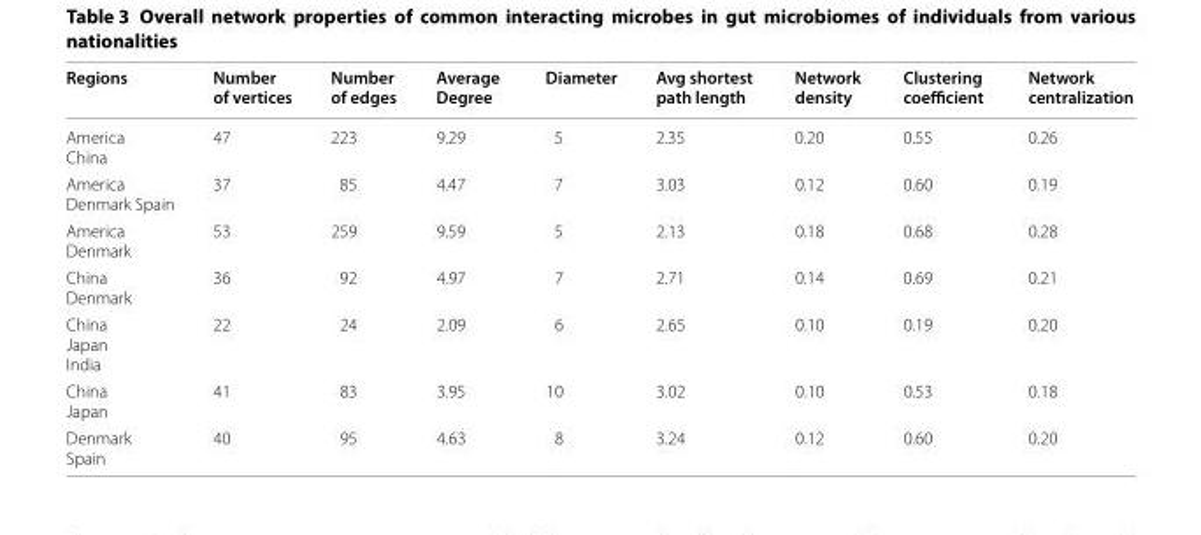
<table><thead><tr><td>Regions</td><td>Number of vertices</td><td>Number of edges</td><td>Average Degree</td><td>Diameter</td><td>Avg shortest path length</td><td>Network density</td><td>Clustering coefficient</td><td>Network centralization</td></tr></thead><tbody><tr><td>America China</td><td>47</td><td>223</td><td>9.29</td><td>5</td><td>2.35</td><td>0.20</td><td>0.55</td><td>0.26</td></tr><tr><td>America Denmark Spain</td><td>37</td><td>85</td><td>4.47</td><td>7</td><td>3.03</td><td>0.12</td><td>0.60</td><td>0.19</td></tr><tr><td>America Denmark</td><td>53</td><td>259</td><td>9.59</td><td>5</td><td>2.13</td><td>0.18</td><td>0.68</td><td>0.28</td></tr><tr><td>China Denmark</td><td>36</td><td>92</td><td>4.97</td><td>7</td><td>2.71</td><td>0.14</td><td>0.69</td><td>0.21</td></tr><tr><td>China Japan India</td><td>22</td><td>24</td><td>2.09</td><td>6</td><td>2.65</td><td>0.10</td><td>0.19</td><td>0.20</td></tr><tr><td>China Japan</td><td>41</td><td>83</td><td>3.95</td><td>10</td><td>3.02</td><td>0.10</td><td>0.53</td><td>0.18</td></tr><tr><td>Denmark Spain</td><td>40</td><td>95</td><td>4.63</td><td>8</td><td>3.24</td><td>0.12</td><td>0.60</td><td>0.20</td></tr></tbody></table>